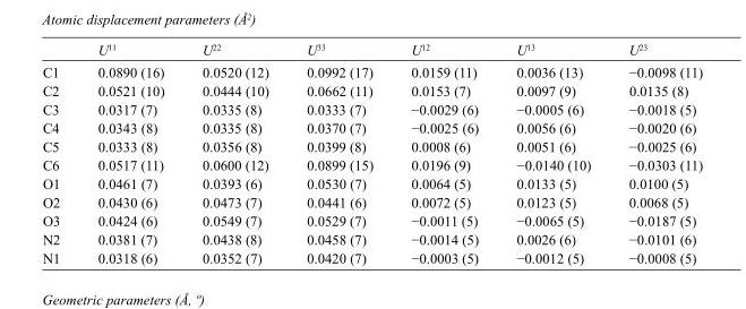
<table><thead><tr><td></td><td>U<sup>11</sup></td><td>U<sup>22</sup></td><td>U<sup>33</sup></td><td>U<sup>12</sup></td><td>U<sup>13</sup></td><td>U<sup>23</sup></td></tr></thead><tbody><tr><td>C1</td><td>0.0890 (16)</td><td>0.0520 (12)</td><td>0.0992 (17)</td><td>0.0159 (11)</td><td>0.0036 (13)</td><td>−0.0098 (11)</td></tr><tr><td>C2</td><td>0.0521 (10)</td><td>0.0444 (10)</td><td>0.0662 (11)</td><td>0.0153 (7)</td><td>0.0097 (9)</td><td>0.0135 (8)</td></tr><tr><td>C3</td><td>0.0317 (7)</td><td>0.0335 (8)</td><td>0.0333 (7)</td><td>−0.0029 (6)</td><td>−0.0005 (6)</td><td>−0.0018 (5)</td></tr><tr><td>C4</td><td>0.0343 (8)</td><td>0.0335 (8)</td><td>0.0370 (7)</td><td>−0.0025 (6)</td><td>0.0056 (6)</td><td>−0.0020 (6)</td></tr><tr><td>C5</td><td>0.0333 (8)</td><td>0.0356 (8)</td><td>0.0399 (8)</td><td>0.0008 (6)</td><td>0.0051 (6)</td><td>−0.0025 (6)</td></tr><tr><td>C6</td><td>0.0517 (11)</td><td>0.0600 (12)</td><td>0.0899 (15)</td><td>0.0196 (9)</td><td>−0.0140 (10)</td><td>−0.0303 (11)</td></tr><tr><td>O1</td><td>0.0461 (7)</td><td>0.0393 (6)</td><td>0.0530 (7)</td><td>0.0064 (5)</td><td>0.0133 (5)</td><td>0.0100 (5)</td></tr><tr><td>O2</td><td>0.0430 (6)</td><td>0.0473 (7)</td><td>0.0441 (6)</td><td>0.0072 (5)</td><td>0.0123 (5)</td><td>0.0068 (5)</td></tr><tr><td>O3</td><td>0.0424 (6)</td><td>0.0549 (7)</td><td>0.0529 (7)</td><td>−0.0011 (5)</td><td>−0.0065 (5)</td><td>−0.0187 (5)</td></tr><tr><td>N2</td><td>0.0381 (7)</td><td>0.0438 (8)</td><td>0.0458 (7)</td><td>−0.0014 (5)</td><td>0.0026 (6)</td><td>−0.0101 (6)</td></tr><tr><td>N1</td><td>0.0318 (6)</td><td>0.0352 (7)</td><td>0.0420 (7)</td><td>−0.0003 (5)</td><td>−0.0012 (5)</td><td>−0.0008 (5)</td></tr></tbody></table>